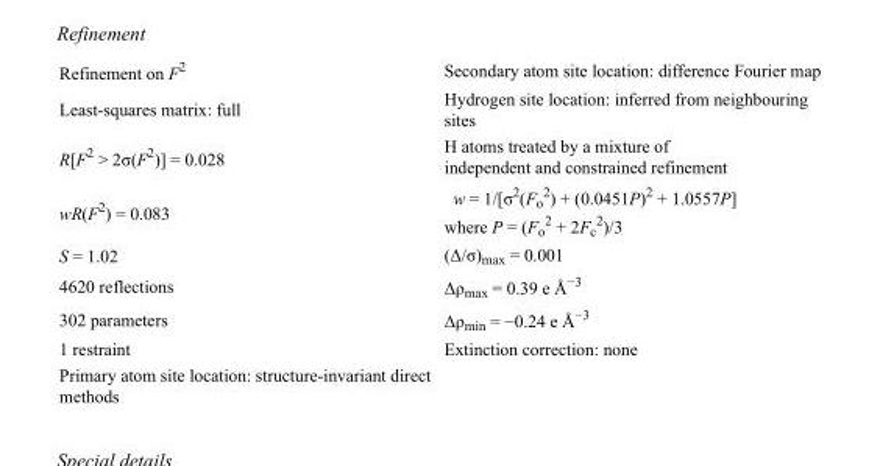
<table><tbody><tr><td>Refinement on F<sup>2</sup></td><td>Secondary atom site location: difference Fourier map</td></tr><tr><td>Least-squares matrix: full</td><td>Hydrogen site location: inferred from neighbouring sites</td></tr><tr><td>R[F<sup>2</sup> &gt; 2σ(F<sup>2</sup>)] = 0.028</td><td>H atoms treated by a mixture of independent and constrained refinement</td></tr><tr><td>wR(F<sup>2</sup>) = 0.083</td><td>w = 1/[σ<sup>2</sup>(F<sub>o</sub> <sup>2</sup>) + (0.0451P)<sup>2</sup> + 1.0557P] where P = (F<sub>o</sub> <sup>2</sup> + 2F<sub>c</sub> <sup>2</sup>)/3</td></tr><tr><td>S = 1.02</td><td>(Δ/σ)<sub>max</sub> = 0.001</td></tr><tr><td>4620 reflections</td><td>Δρ<sub>max</sub> = 0.39 e Å<sup>−3</sup></td></tr><tr><td>302 parameters</td><td>Δρ<sub>min</sub> = −0.24 e Å<sup>−3</sup></td></tr><tr><td>1 restraint</td><td>Extinction correction: none</td></tr><tr><td>Primary atom site location: structure-invariant direct methods</td><td></td></tr></tbody></table>